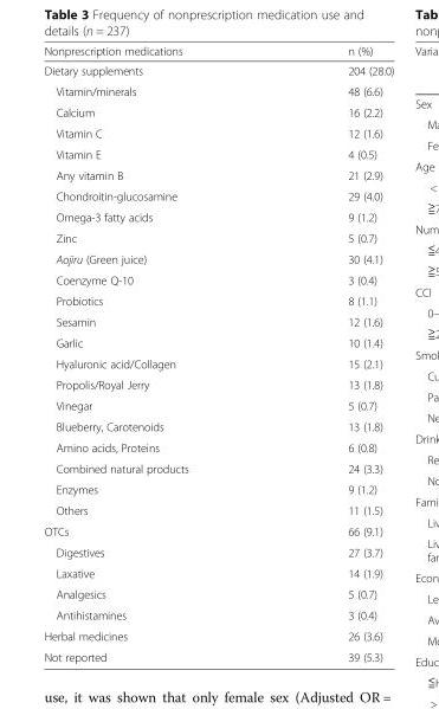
<table><thead><tr><td>Nonprescription medications</td><td>n (%)</td></tr></thead><tbody><tr><td>Dietary supplements</td><td>204 (28.0)</td></tr><tr><td>Vitamin/minerals</td><td>48 (6.6)</td></tr><tr><td>Calcium</td><td>16 (2.2)</td></tr><tr><td>Vitamin C</td><td>12 (1.6)</td></tr><tr><td>Vitamin E</td><td>4 (0.5)</td></tr><tr><td>Any vitamin B</td><td>21 (2.9)</td></tr><tr><td>Chondroitin-glucosamine</td><td>29 (4.0)</td></tr><tr><td>Omega-3 fatty acids</td><td>9 (1.2)</td></tr><tr><td>Zinc</td><td>5 (0.7)</td></tr><tr><td>Aojiru (Green juice)</td><td>30 (4.1)</td></tr><tr><td>Coenzyme Q-10</td><td>3 (0.4)</td></tr><tr><td>Probiotics</td><td>8 (1.1)</td></tr><tr><td>Sesamin</td><td>12 (1.6)</td></tr><tr><td>Garlic</td><td>10 (1.4)</td></tr><tr><td>Hyaluronic acid/Collagen</td><td>15 (2.1)</td></tr><tr><td>Propolis/Royal Jerry</td><td>13 (1.8)</td></tr><tr><td>Vinegar</td><td>5 (0.7)</td></tr><tr><td>Blueberry, Carotenoids</td><td>13 (1.8)</td></tr><tr><td>Amino acids, Proteins</td><td>6 (0.8)</td></tr><tr><td>Combined natural products</td><td>24 (3.3)</td></tr><tr><td>Enzymes</td><td>9 (1.2)</td></tr><tr><td>Others</td><td>11 (1.5)</td></tr><tr><td>OTCs</td><td>66 (9.1)</td></tr><tr><td>Digestives</td><td>27 (3.7)</td></tr><tr><td>Laxative</td><td>14 (1.9)</td></tr><tr><td>Analgesics</td><td>5 (0.7)</td></tr><tr><td>Antihistamines</td><td>3 (0.4)</td></tr><tr><td>Herbal medicines</td><td>26 (3.6)</td></tr><tr><td>Not reported</td><td>39 (5.3)</td></tr></tbody></table>